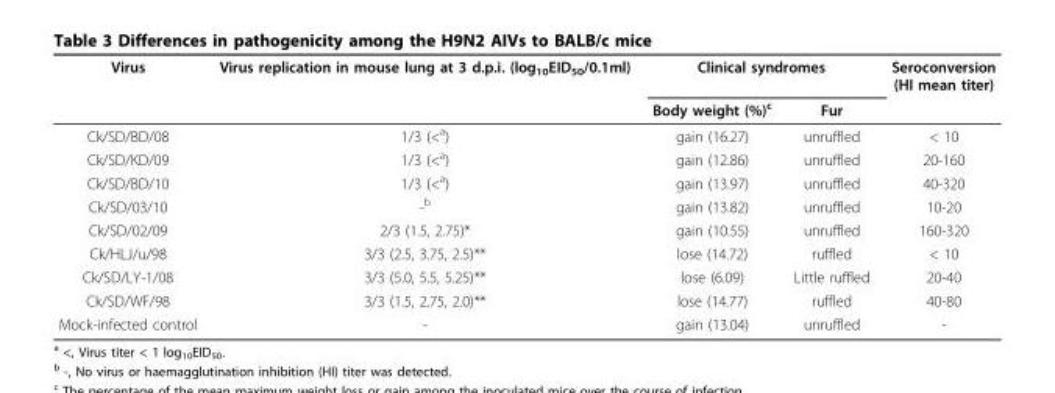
<table><tbody><tr><td rowspan="2">Virus</td><td>Virus replication in mouse lung at 3 d.p.i. (log<sub>10</sub>EID<sub>50</sub>/0.1ml)</td><td colspan="2">Clinical syndromes</td><td>Seroconversion (HI mean titer)</td></tr><tr><td></td><td>Body weight (%)<sup>c</sup></td><td>Fur</td><td></td></tr><tr><td>Ck/SD/BD/08</td><td>1/3 (&lt;<sup>a</sup>)</td><td>gain (16.27)</td><td>unruffled</td><td>&lt; 10</td></tr><tr><td>Ck/SD/KD/09</td><td>1/3 (&lt;<sup>a</sup>)</td><td>gain (12.86)</td><td>unruffled</td><td>20-160</td></tr><tr><td>Ck/SD/BD/10</td><td>1/3 (&lt;<sup>a</sup>)</td><td>gain (13.97)</td><td>unruffled</td><td>40-320</td></tr><tr><td>Ck/SD/03/10</td><td>-<sup>b</sup></td><td>gain (13.82)</td><td>unruffled</td><td>10-20</td></tr><tr><td>Ck/SD/02/09</td><td>2/3 (1.5, 2.75)*</td><td>gain (10.55)</td><td>unruffled</td><td>160-320</td></tr><tr><td>Ck/HLJ/u/98</td><td>3/3 (2.5, 3.75, 2.5)**</td><td>lose (14.72)</td><td>ruffled</td><td>&lt; 10</td></tr><tr><td>Ck/SD/LY-1/08</td><td>3/3 (5.0, 5.5, 5.25)**</td><td>lose (6.09)</td><td>Little ruffled</td><td>20-40</td></tr><tr><td>Ck/SD/WF/98</td><td>3/3 (1.5, 2.75, 2.0)**</td><td>lose (14.77)</td><td>ruffled</td><td>40-80</td></tr><tr><td>Mock-infected control</td><td>-</td><td>gain (13.04)</td><td>unruffled</td><td>-</td></tr></tbody></table>